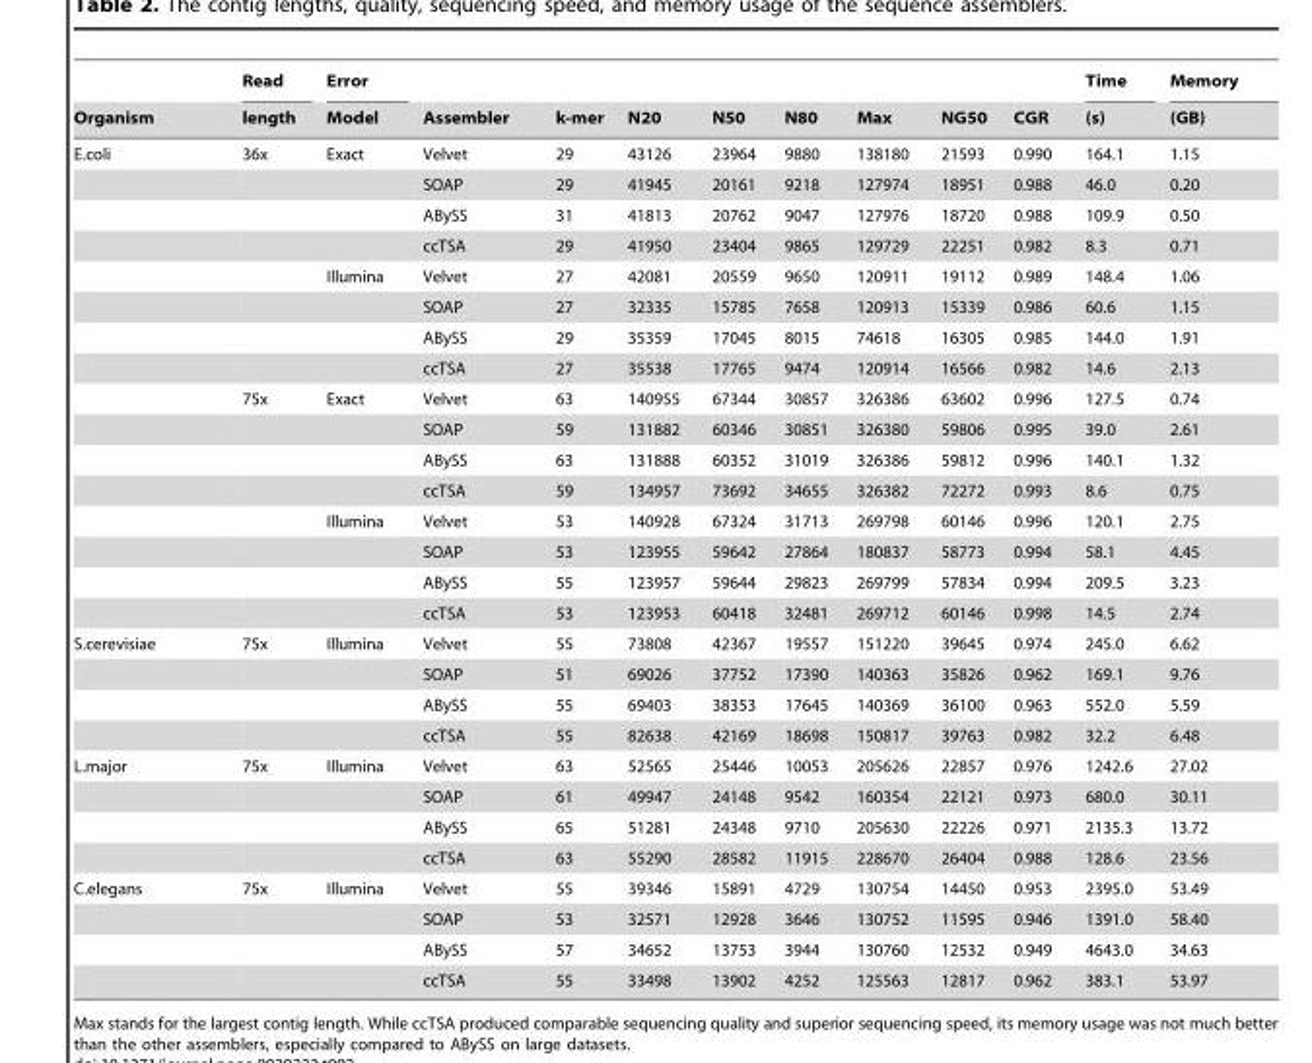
<table><thead><tr><td rowspan="2">Organism</td><td rowspan="2">Read length</td><td rowspan="2">Error Model</td><td rowspan="2">Assembler</td><td rowspan="2">k-mer</td><td rowspan="2">N20</td><td rowspan="2">N50</td><td rowspan="2">N80</td><td rowspan="2">Max</td><td rowspan="2">NG50</td><td rowspan="2">CGR</td><td rowspan="2">Time (s)</td><td rowspan="2">Memory (GB)</td></tr><tr></tr></thead><tbody><tr><td rowspan="16">E.coli</td><td>36x</td><td>Exact</td><td>Velvet</td><td>29</td><td>43126</td><td>23964</td><td>9880</td><td>138180</td><td>21593</td><td>0.990</td><td>164.1</td><td>1.15</td></tr><tr><td></td><td></td><td>SOAP</td><td>29</td><td>41945</td><td>20161</td><td>9218</td><td>127974</td><td>18951</td><td>0.988</td><td>46.0</td><td>0.20</td></tr><tr><td></td><td></td><td>ABySS</td><td>31</td><td>41813</td><td>20762</td><td>9047</td><td>127976</td><td>18720</td><td>0.988</td><td>109.9</td><td>0.50</td></tr><tr><td></td><td></td><td>ccTSA</td><td>29</td><td>41950</td><td>23404</td><td>9865</td><td>129729</td><td>22251</td><td>0.982</td><td>8.3</td><td>0.71</td></tr><tr><td></td><td>Illumina</td><td>Velvet</td><td>27</td><td>42081</td><td>20559</td><td>9650</td><td>120911</td><td>19112</td><td>0.989</td><td>148.4</td><td>1.06</td></tr><tr><td></td><td></td><td>SOAP</td><td>27</td><td>32335</td><td>15785</td><td>7658</td><td>120913</td><td>15339</td><td>0.986</td><td>60.6</td><td>1.15</td></tr><tr><td></td><td></td><td>ABySS</td><td>29</td><td>35359</td><td>17045</td><td>8015</td><td>74618</td><td>16305</td><td>0.985</td><td>144.0</td><td>1.91</td></tr><tr><td></td><td></td><td>ccTSA</td><td>27</td><td>35538</td><td>17765</td><td>9474</td><td>120914</td><td>16566</td><td>0.982</td><td>14.6</td><td>2.13</td></tr><tr><td>75x</td><td>Exact</td><td>Velvet</td><td>63</td><td>140955</td><td>67344</td><td>30857</td><td>326386</td><td>63602</td><td>0.996</td><td>127.5</td><td>0.74</td></tr><tr><td></td><td></td><td>SOAP</td><td>59</td><td>131882</td><td>60346</td><td>30851</td><td>326380</td><td>59806</td><td>0.995</td><td>39.0</td><td>2.61</td></tr><tr><td></td><td></td><td>ABySS</td><td>63</td><td>131888</td><td>60352</td><td>31019</td><td>326386</td><td>59812</td><td>0.996</td><td>140.1</td><td>1.32</td></tr><tr><td></td><td></td><td>ccTSA</td><td>59</td><td>134957</td><td>73692</td><td>34655</td><td>326382</td><td>72272</td><td>0.993</td><td>8.6</td><td>0.75</td></tr><tr><td></td><td>Illumina</td><td>Velvet</td><td>53</td><td>140928</td><td>67324</td><td>31713</td><td>269798</td><td>60146</td><td>0.996</td><td>120.1</td><td>2.75</td></tr><tr><td></td><td></td><td>SOAP</td><td>53</td><td>123955</td><td>59642</td><td>27864</td><td>180837</td><td>58773</td><td>0.994</td><td>58.1</td><td>4.45</td></tr><tr><td></td><td></td><td>ABySS</td><td>55</td><td>123957</td><td>59644</td><td>29823</td><td>269799</td><td>57834</td><td>0.994</td><td>209.5</td><td>3.23</td></tr><tr><td></td><td></td><td>ccTSA</td><td>53</td><td>123953</td><td>60418</td><td>32481</td><td>269712</td><td>60146</td><td>0.998</td><td>14.5</td><td>2.74</td></tr><tr><td rowspan="4">S.cerevisiae</td><td>75x</td><td>Illumina</td><td>Velvet</td><td>55</td><td>73808</td><td>42367</td><td>19557</td><td>151220</td><td>39645</td><td>0.974</td><td>245.0</td><td>6.62</td></tr><tr><td></td><td></td><td>SOAP</td><td>51</td><td>69026</td><td>37752</td><td>17390</td><td>140363</td><td>35826</td><td>0.962</td><td>169.1</td><td>9.76</td></tr><tr><td></td><td></td><td>ABySS</td><td>55</td><td>69403</td><td>38353</td><td>17645</td><td>140369</td><td>36100</td><td>0.963</td><td>552.0</td><td>5.59</td></tr><tr><td></td><td></td><td>ccTSA</td><td>55</td><td>82638</td><td>42169</td><td>18698</td><td>150817</td><td>39763</td><td>0.982</td><td>32.2</td><td>6.48</td></tr><tr><td rowspan="4">L.major</td><td>75x</td><td>Illumina</td><td>Velvet</td><td>63</td><td>52565</td><td>25446</td><td>10053</td><td>205626</td><td>22857</td><td>0.976</td><td>1242.6</td><td>27.02</td></tr><tr><td></td><td></td><td>SOAP</td><td>61</td><td>49947</td><td>24148</td><td>9542</td><td>160354</td><td>22121</td><td>0.973</td><td>680.0</td><td>30.11</td></tr><tr><td></td><td></td><td>ABySS</td><td>65</td><td>51281</td><td>24348</td><td>9710</td><td>205630</td><td>22226</td><td>0.971</td><td>2135.3</td><td>13.72</td></tr><tr><td></td><td></td><td>ccTSA</td><td>63</td><td>55290</td><td>28582</td><td>11915</td><td>228670</td><td>26404</td><td>0.988</td><td>128.6</td><td>23.56</td></tr><tr><td rowspan="4">C.elegans</td><td>75x</td><td>Illumina</td><td>Velvet</td><td>55</td><td>39346</td><td>15891</td><td>4729</td><td>130754</td><td>14450</td><td>0.953</td><td>2395.0</td><td>53.49</td></tr><tr><td></td><td></td><td>SOAP</td><td>53</td><td>32571</td><td>12928</td><td>3646</td><td>130752</td><td>11595</td><td>0.946</td><td>1391.0</td><td>58.40</td></tr><tr><td></td><td></td><td>ABySS</td><td>57</td><td>34652</td><td>13753</td><td>3944</td><td>130760</td><td>12532</td><td>0.949</td><td>4643.0</td><td>34.63</td></tr><tr><td></td><td></td><td>ccTSA</td><td>55</td><td>33498</td><td>13902</td><td>4252</td><td>125563</td><td>12817</td><td>0.962</td><td>383.1</td><td>53.97</td></tr></tbody></table>